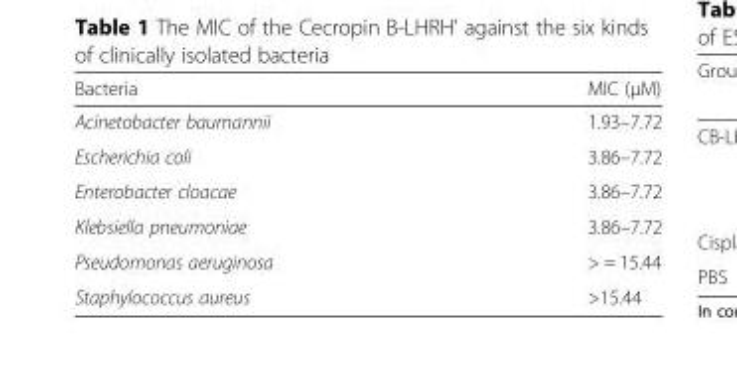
<table><thead><tr><td>Bacteria</td><td>MIC (μM)</td></tr></thead><tbody><tr><td>Acinetobacter baumannii</td><td>1.93–7.72</td></tr><tr><td>Escherichia coli</td><td>3.86–7.72</td></tr><tr><td>Enterobacter cloacae</td><td>3.86–7.72</td></tr><tr><td>Klebsiella pneumoniae</td><td>3.86–7.72</td></tr><tr><td>Pseudomonas aeruginosa</td><td>&gt; = 15.44</td></tr><tr><td>Staphylococcus aureus</td><td>&gt;15.44</td></tr></tbody></table>